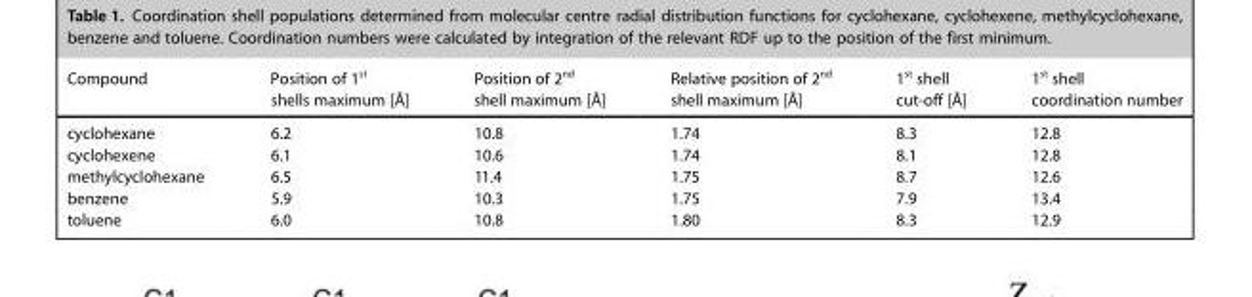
<table><thead><tr><td>Compound</td><td>Position of 1<sup>st</sup> shells maximum [Å]</td><td>Position of 2<sup>nd</sup> shell maximum [Å]</td><td>Relative position of 2<sup>nd</sup> shell maximum [Å]</td><td>1<sup>st</sup> shell cut-off [Å]</td><td>1<sup>st</sup> shell coordination number</td></tr></thead><tbody><tr><td>cyclohexane</td><td>6.2</td><td>10.8</td><td>1.74</td><td>8.3</td><td>12.8</td></tr><tr><td>cyclohexene</td><td>6.1</td><td>10.6</td><td>1.74</td><td>8.1</td><td>12.8</td></tr><tr><td>methylcyclohexane</td><td>6.5</td><td>11.4</td><td>1.75</td><td>8.7</td><td>12.6</td></tr><tr><td>benzene</td><td>5.9</td><td>10.3</td><td>1.75</td><td>7.9</td><td>13.4</td></tr><tr><td>toluene</td><td>6.0</td><td>10.8</td><td>1.80</td><td>8.3</td><td>12.9</td></tr></tbody></table>